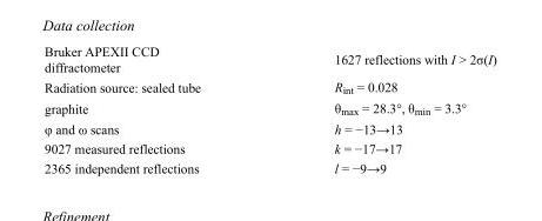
<table><tbody><tr><td>Bruker APEXII CCD diffractometer</td><td>1627 reflections with I &gt; 2σ(I)</td></tr><tr><td>Radiation source: sealed tube</td><td>R<sub>int</sub> = 0.028</td></tr><tr><td>graphite</td><td>θ<sub>max</sub> = 28.3°, θ<sub>min</sub> = 3.3°</td></tr><tr><td>φ and ω scans</td><td>h = −13→13</td></tr><tr><td>9027 measured reflections</td><td>k = −17→17</td></tr><tr><td>2365 independent reflections</td><td>l = −9→9</td></tr></tbody></table>